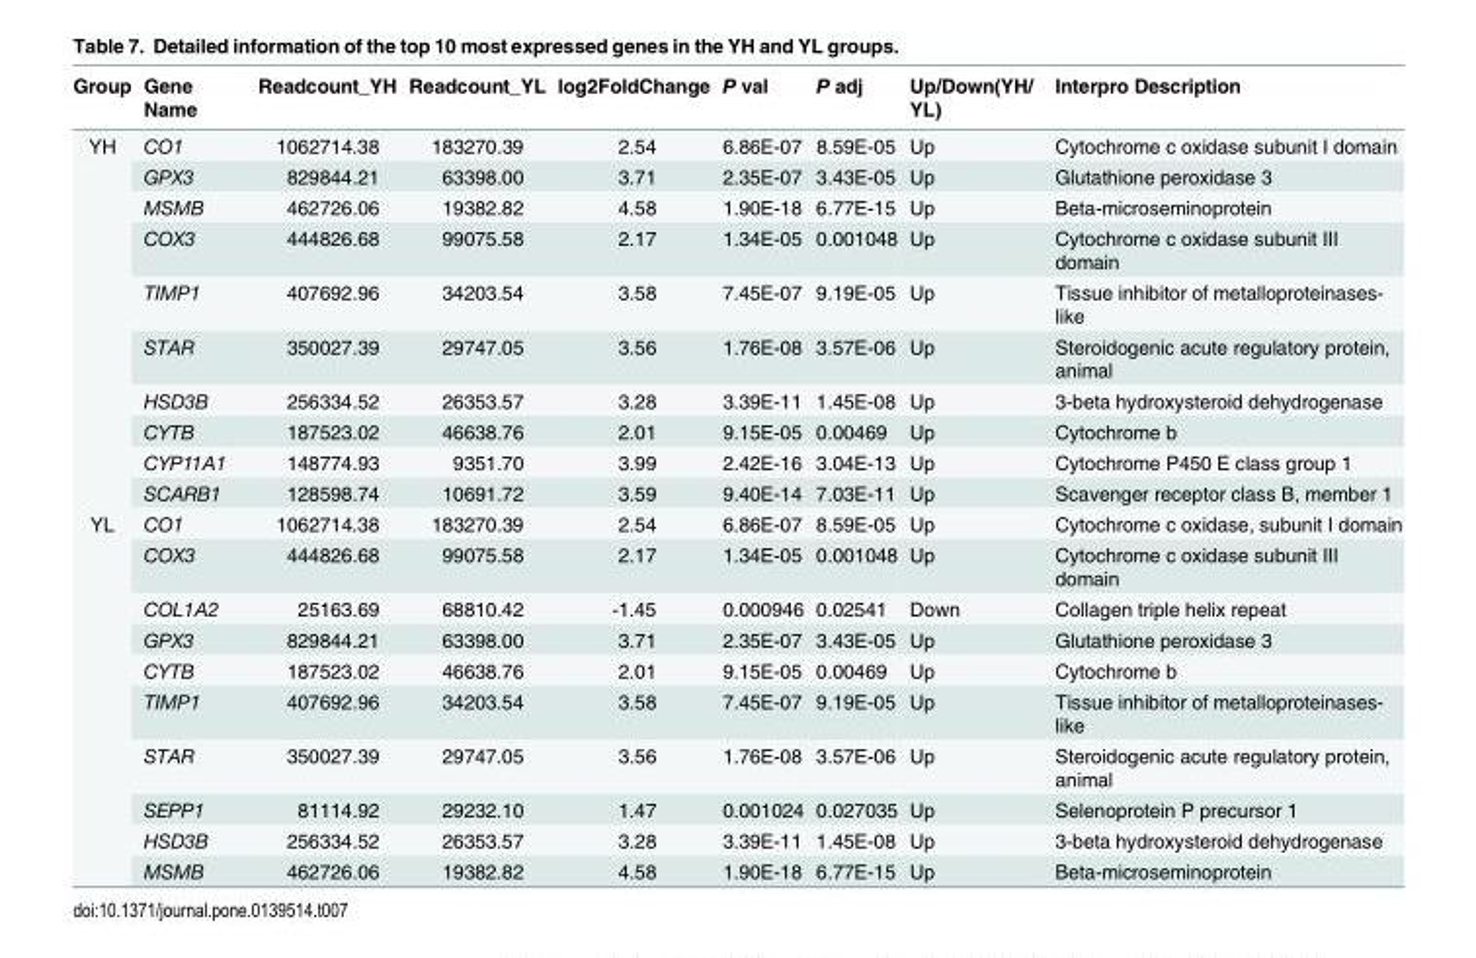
<table><thead><tr><td>Group</td><td>Gene Name</td><td>Readcount_YH</td><td>Readcount_YL</td><td>log2FoldChange</td><td>P val</td><td>P adj</td><td>Up/Down(YH/ YL)</td><td>Interpro Description</td></tr></thead><tbody><tr><td rowspan="10">YH</td><td>CO1</td><td>1062714.38</td><td>183270.39</td><td>2.54</td><td>6.86E-07</td><td>8.59E-05</td><td>Up</td><td>Cytochrome c oxidase subunit I domain</td></tr><tr><td>GPX3</td><td>829844.21</td><td>63398.00</td><td>3.71</td><td>2.35E-07</td><td>3.43E-05</td><td>Up</td><td>Glutathione peroxidase 3</td></tr><tr><td>MSMB</td><td>462726.06</td><td>19382.82</td><td>4.58</td><td>1.90E-18</td><td>6.77E-15</td><td>Up</td><td>Beta-microseminoprotein</td></tr><tr><td>COX3</td><td>444826.68</td><td>99075.58</td><td>2.17</td><td>1.34E-05</td><td>0.001048</td><td>Up</td><td>Cytochrome c oxidase subunit III domain</td></tr><tr><td>TIMP1</td><td>407692.96</td><td>34203.54</td><td>3.58</td><td>7.45E-07</td><td>9.19E-05</td><td>Up</td><td>Tissue inhibitor of metalloproteinases- like</td></tr><tr><td>STAR</td><td>350027.39</td><td>29747.05</td><td>3.56</td><td>1.76E-08</td><td>3.57E-06</td><td>Up</td><td>Steroidogenic acute regulatory protein, animal</td></tr><tr><td>HSD3B</td><td>256334.52</td><td>26353.57</td><td>3.28</td><td>3.39E-11</td><td>1.45E-08</td><td>Up</td><td>3-beta hydroxysteroid dehydrogenase</td></tr><tr><td>CYTB</td><td>187523.02</td><td>46638.76</td><td>2.01</td><td>9.15E-05</td><td>0.00469</td><td>Up</td><td>Cytochrome b</td></tr><tr><td>CYP11A1</td><td>148774.93</td><td>9351.70</td><td>3.99</td><td>2.42E-16</td><td>3.04E-13</td><td>Up</td><td>Cytochrome P450 E class group 1</td></tr><tr><td>SCARB1</td><td>128598.74</td><td>10691.72</td><td>3.59</td><td>9.40E-14</td><td>7.03E-11</td><td>Up</td><td>Scavenger receptor class B, member 1</td></tr><tr><td rowspan="10">YL</td><td>CO1</td><td>1062714.38</td><td>183270.39</td><td>2.54</td><td>6.86E-07</td><td>8.59E-05</td><td>Up</td><td>Cytochrome c oxidase, subunit I domain</td></tr><tr><td>COX3</td><td>444826.68</td><td>99075.58</td><td>2.17</td><td>1.34E-05</td><td>0.001048</td><td>Up</td><td>Cytochrome c oxidase subunit III domain</td></tr><tr><td>COL1A2</td><td>25163.69</td><td>68810.42</td><td>-1.45</td><td>0.000946</td><td>0.02541</td><td>Down</td><td>Collagen triple helix repeat</td></tr><tr><td>GPX3</td><td>829844.21</td><td>63398.00</td><td>3.71</td><td>2.35E-07</td><td>3.43E-05</td><td>Up</td><td>Glutathione peroxidase 3</td></tr><tr><td>CYTB</td><td>187523.02</td><td>46638.76</td><td>2.01</td><td>9.15E-05</td><td>0.00469</td><td>Up</td><td>Cytochrome b</td></tr><tr><td>TIMP1</td><td>407692.96</td><td>34203.54</td><td>3.58</td><td>7.45E-07</td><td>9.19E-05</td><td>Up</td><td>Tissue inhibitor of metalloproteinases- like</td></tr><tr><td>STAR</td><td>350027.39</td><td>29747.05</td><td>3.56</td><td>1.76E-08</td><td>3.57E-06</td><td>Up</td><td>Steroidogenic acute regulatory protein, animal</td></tr><tr><td>SEPP1</td><td>81114.92</td><td>29232.10</td><td>1.47</td><td>0.001024</td><td>0.027035</td><td>Up</td><td>Selenoprotein P precursor 1</td></tr><tr><td>HSD3B</td><td>256334.52</td><td>26353.57</td><td>3.28</td><td>3.39E-11</td><td>1.45E-08</td><td>Up</td><td>3-beta hydroxysteroid dehydrogenase</td></tr><tr><td>MSMB</td><td>462726.06</td><td>19382.82</td><td>4.58</td><td>1.90E-18</td><td>6.77E-15</td><td>Up</td><td>Beta-microseminoprotein</td></tr></tbody></table>